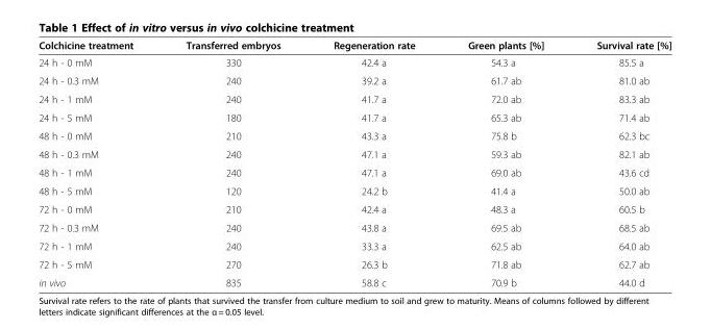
<table><thead><tr><td>Colchicine treatment</td><td>Transferred embryos</td><td>Regeneration rate</td><td>Green plants [%]</td><td>Survival rate [%]</td></tr></thead><tbody><tr><td>24 h - 0 mM</td><td>330</td><td>42.4 a</td><td>54.3 a</td><td>85.5 a</td></tr><tr><td>24 h - 0.3 mM</td><td>240</td><td>39.2 a</td><td>61.7 ab</td><td>81.0 ab</td></tr><tr><td>24 h - 1 mM</td><td>240</td><td>41.7 a</td><td>72.0 ab</td><td>83.3 ab</td></tr><tr><td>24 h - 5 mM</td><td>180</td><td>41.7 a</td><td>65.3 ab</td><td>71.4 ab</td></tr><tr><td>48 h - 0 mM</td><td>210</td><td>43.3 a</td><td>75.8 b</td><td>62.3 bc</td></tr><tr><td>48 h - 0.3 mM</td><td>240</td><td>47.1 a</td><td>59.3 ab</td><td>82.1 ab</td></tr><tr><td>48 h - 1 mM</td><td>240</td><td>47.1 a</td><td>69.0 ab</td><td>43.6 cd</td></tr><tr><td>48 h - 5 mM</td><td>120</td><td>24.2 b</td><td>41.4 a</td><td>50.0 ab</td></tr><tr><td>72 h - 0 mM</td><td>210</td><td>42.4 a</td><td>48.3 a</td><td>60.5 b</td></tr><tr><td>72 h - 0.3 mM</td><td>240</td><td>43.8 a</td><td>69.5 ab</td><td>68.5 ab</td></tr><tr><td>72 h - 1 mM</td><td>240</td><td>33.3 a</td><td>62.5 ab</td><td>64.0 ab</td></tr><tr><td>72 h - 5 mM</td><td>270</td><td>26.3 b</td><td>71.8 ab</td><td>62.7 ab</td></tr><tr><td>in vivo</td><td>835</td><td>58.8 c</td><td>70.9 b</td><td>44.0 d</td></tr></tbody></table>